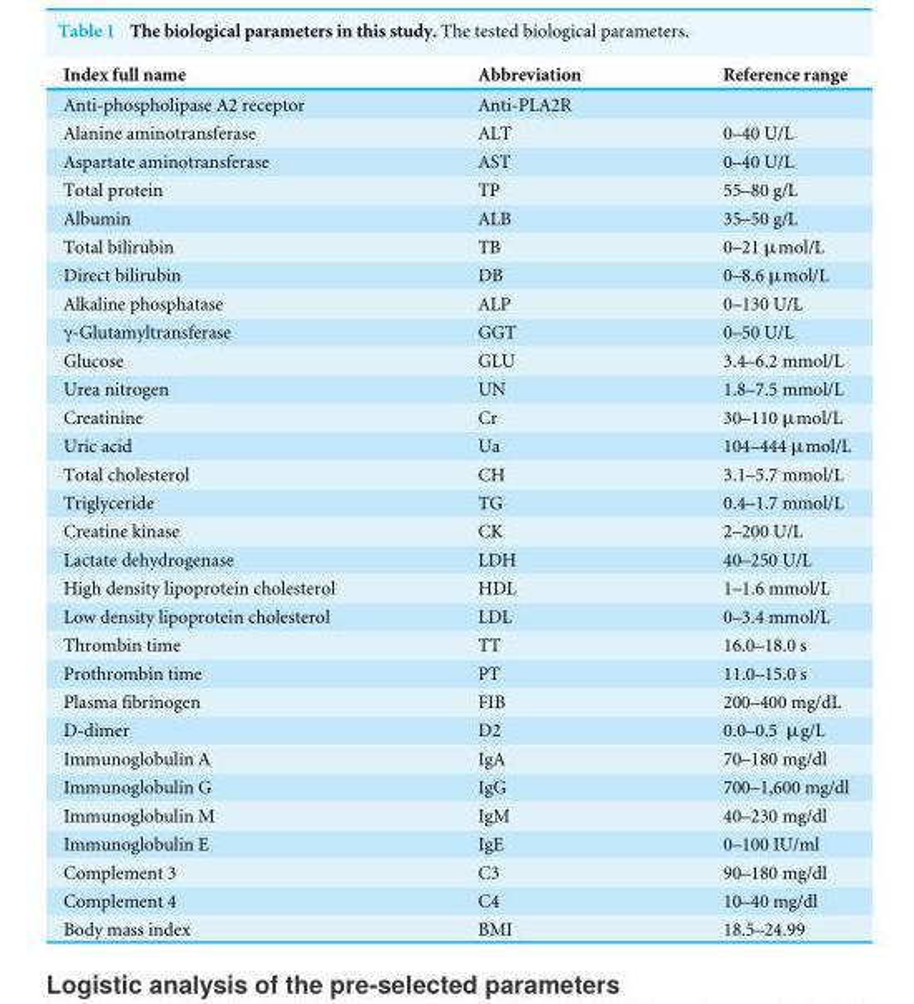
<table><thead><tr><td>Index full name</td><td>Abbreviation</td><td>Reference range</td></tr></thead><tbody><tr><td>Anti-phospholipase A2 receptor</td><td>Anti-PLA2R</td><td></td></tr><tr><td>Alanine aminotransferase</td><td>ALT</td><td>0–40 U/L</td></tr><tr><td>Aspartate aminotransferase</td><td>AST</td><td>0–40 U/L</td></tr><tr><td>Total protein</td><td>TP</td><td>55–80 g/L</td></tr><tr><td>Albumin</td><td>ALB</td><td>35–50 g/L</td></tr><tr><td>Total bilirubin</td><td>TB</td><td>0–21 µmol/L</td></tr><tr><td>Direct bilirubin</td><td>DB</td><td>0–8.6 µmol/L</td></tr><tr><td>Alkaline phosphatase</td><td>ALP</td><td>0–130 U/L</td></tr><tr><td>γ-Glutamyltransferase</td><td>GGT</td><td>0–50 U/L</td></tr><tr><td>Glucose</td><td>GLU</td><td>3.4–6.2 mmol/L</td></tr><tr><td>Urea nitrogen</td><td>UN</td><td>1.8–7.5 mmol/L</td></tr><tr><td>Creatinine</td><td>Cr</td><td>30–110 µmol/L</td></tr><tr><td>Uric acid</td><td>Ua</td><td>104–444 µmol/L</td></tr><tr><td>Total cholesterol</td><td>CH</td><td>3.1–5.7 mmol/L</td></tr><tr><td>Triglyceride</td><td>TG</td><td>0.4–1.7 mmol/L</td></tr><tr><td>Creatine kinase</td><td>CK</td><td>2–200 U/L</td></tr><tr><td>Lactate dehydrogenase</td><td>LDH</td><td>40–250 U/L</td></tr><tr><td>High density lipoprotein cholesterol</td><td>HDL</td><td>1–1.6 mmol/L</td></tr><tr><td>Low density lipoprotein cholesterol</td><td>LDL</td><td>0–3.4 mmol/L</td></tr><tr><td>Thrombin time</td><td>TT</td><td>16.0–18.0 s</td></tr><tr><td>Prothrombin time</td><td>PT</td><td>11.0–15.0 s</td></tr><tr><td>Plasma fibrinogen</td><td>FIB</td><td>200–400 mg/dL</td></tr><tr><td>D-dimer</td><td>D2</td><td>0.0–0.5 µg/L</td></tr><tr><td>Immunoglobulin A</td><td>IgA</td><td>70–180 mg/dl</td></tr><tr><td>Immunoglobulin G</td><td>IgG</td><td>700–1,600 mg/dl</td></tr><tr><td>Immunoglobulin M</td><td>IgM</td><td>40–230 mg/dl</td></tr><tr><td>Immunoglobulin E</td><td>IgE</td><td>0–100 IU/ml</td></tr><tr><td>Complement 3</td><td>C3</td><td>90–180 mg/dl</td></tr><tr><td>Complement 4</td><td>C4</td><td>10–40 mg/dl</td></tr><tr><td>Body mass index</td><td>BMI</td><td>18.5–24.99</td></tr></tbody></table>